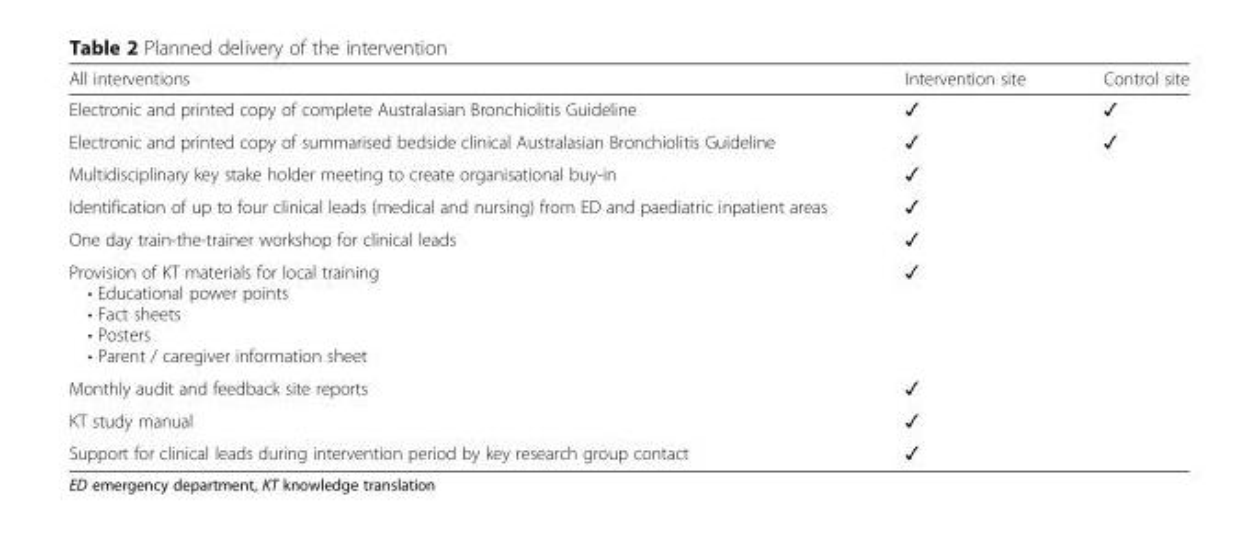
<table><thead><tr><td>All interventions</td><td>Intervention site</td><td>Control site</td></tr></thead><tbody><tr><td>Electronic and printed copy of complete Australasian Bronchiolitis Guideline</td><td>✓</td><td>✓</td></tr><tr><td>Electronic and printed copy of summarised bedside clinical Australasian Bronchiolitis Guideline</td><td>✓</td><td>✓</td></tr><tr><td>Multidisciplinary key stake holder meeting to create organisational buy-in</td><td>✓</td><td></td></tr><tr><td>Identification of up to four clinical leads (medical and nursing) from ED and paediatric inpatient areas</td><td>✓</td><td></td></tr><tr><td>One day train-the-trainer workshop for clinical leads</td><td>✓</td><td></td></tr><tr><td>Provision of KT materials for local training • Educational power points • Fact sheets • Posters • Parent / caregiver information sheet</td><td>✓</td><td></td></tr><tr><td>Monthly audit and feedback site reports</td><td>✓</td><td></td></tr><tr><td>KT study manual</td><td>✓</td><td></td></tr><tr><td>Support for clinical leads during intervention period by key research group contact</td><td>✓</td><td></td></tr></tbody></table>